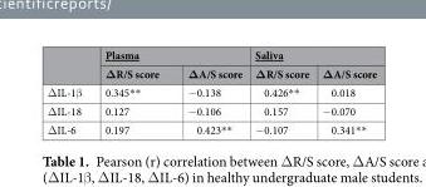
<table><thead><tr><td rowspan="2"></td><td colspan="2">Plasma</td><td colspan="2">Saliva</td></tr><tr><td>ΔR/S score</td><td>ΔA/S score</td><td>ΔR/S score</td><td>ΔA/S score</td></tr></thead><tbody><tr><td>ΔIL-1β</td><td>0.345**</td><td>−0.138</td><td>0.426**</td><td>0.018</td></tr><tr><td>ΔIL-18</td><td>0.127</td><td>−0.106</td><td>0.157</td><td>−0.070</td></tr><tr><td>ΔIL-6</td><td>0.197</td><td>0.423**</td><td>−0.107</td><td>0.341**</td></tr></tbody></table>